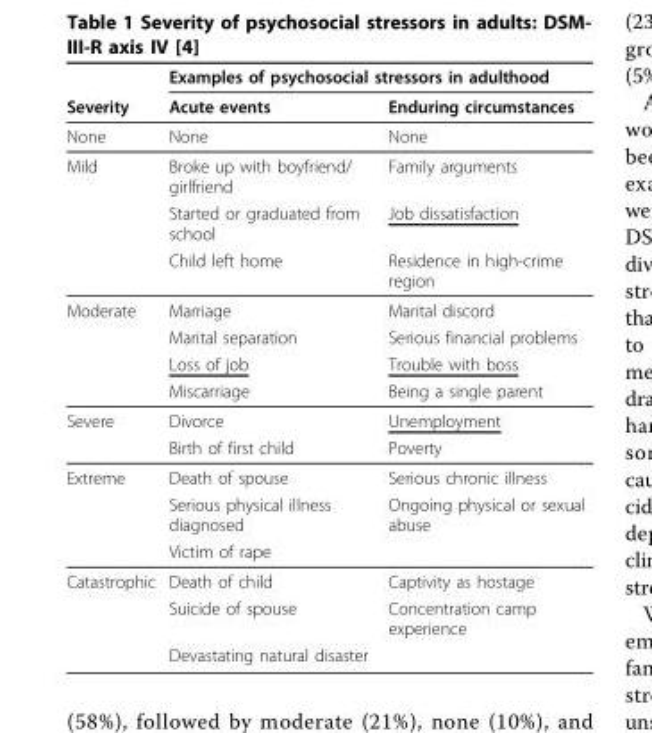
<table><thead><tr><td rowspan="2">Severity</td><td colspan="2">Examples of psychosocial stressors in adulthood</td></tr><tr><td>Acute events</td><td>Enduring circumstances</td></tr></thead><tbody><tr><td>None</td><td>None</td><td>None</td></tr><tr><td rowspan="3">Mild</td><td>Broke up with boyfriend/ girlfriend</td><td>Family arguments</td></tr><tr><td>Started or graduated from school</td><td>Job dissatisfaction</td></tr><tr><td>Child left home</td><td>Residence in high-crime region</td></tr><tr><td rowspan="4">Moderate</td><td>Marriage</td><td>Marital discord</td></tr><tr><td>Marital separation</td><td>Serious financial problems</td></tr><tr><td>Loss of job</td><td>Trouble with boss</td></tr><tr><td>Miscarriage</td><td>Being a single parent</td></tr><tr><td rowspan="2">Severe</td><td>Divorce</td><td>Unemployment</td></tr><tr><td>Birth of first child</td><td>Poverty</td></tr><tr><td rowspan="3">Extreme</td><td>Death of spouse</td><td>Serious chronic illness</td></tr><tr><td>Serious physical illness diagnosed</td><td>Ongoing physical or sexual abuse</td></tr><tr><td>Victim of rape</td><td></td></tr><tr><td rowspan="3">Catastrophic</td><td>Death of child</td><td>Captivity as hostage</td></tr><tr><td>Suicide of spouse</td><td>Concentration camp experience</td></tr><tr><td>Devastating natural disaster</td><td></td></tr></tbody></table>